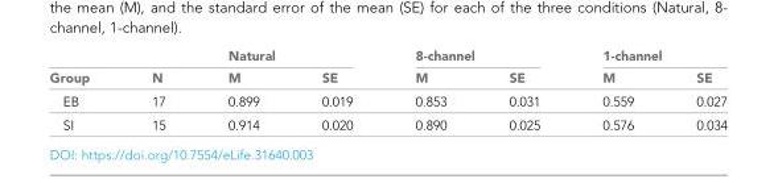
<table><thead><tr><td rowspan="2">Group</td><td rowspan="2">N</td><td colspan="2">Natural</td><td colspan="2">8-channel</td><td colspan="2">1-channel</td></tr><tr><td>M</td><td>SE</td><td>M</td><td>SE</td><td>M</td><td>SE</td></tr></thead><tbody><tr><td>EB</td><td>17</td><td>0.899</td><td>0.019</td><td>0.853</td><td>0.031</td><td>0.559</td><td>0.027</td></tr><tr><td>SI</td><td>15</td><td>0.914</td><td>0.020</td><td>0.890</td><td>0.025</td><td>0.576</td><td>0.034</td></tr></tbody></table>